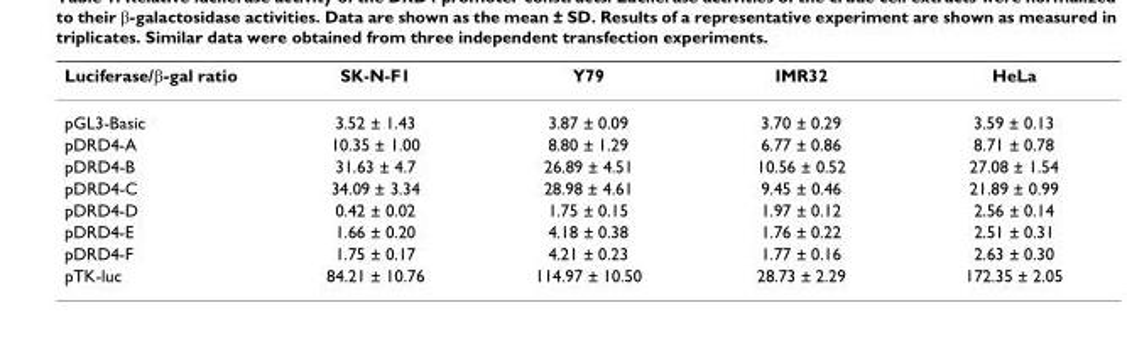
<table><thead><tr><td>Luciferase/β-gal ratio</td><td>SK-N-F1</td><td>Y79</td><td>IMR32</td><td>HeLa</td></tr></thead><tbody><tr><td>pGL3-Basic</td><td>3.52 ± 1.43</td><td>3.87 ± 0.09</td><td>3.70 ± 0.29</td><td>3.59 ± 0.13</td></tr><tr><td>pDRD4-A</td><td>10.35 ± 1.00</td><td>8.80 ± 1.29</td><td>6.77 ± 0.86</td><td>8.71 ± 0.78</td></tr><tr><td>pDRD4-B</td><td>31.63 ± 4.7</td><td>26.89 ± 4.51</td><td>10.56 ± 0.52</td><td>27.08 ± 1.54</td></tr><tr><td>pDRD4-C</td><td>34.09 ± 3.34</td><td>28.98 ± 4.61</td><td>9.45 ± 0.46</td><td>21.89 ± 0.99</td></tr><tr><td>pDRD4-D</td><td>0.42 ± 0.02</td><td>1.75 ± 0.15</td><td>1.97 ± 0.12</td><td>2.56 ± 0.14</td></tr><tr><td>pDRD4-E</td><td>1.66 ± 0.20</td><td>4.18 ± 0.38</td><td>1.76 ± 0.22</td><td>2.51 ± 0.31</td></tr><tr><td>pDRD4-F</td><td>1.75 ± 0.17</td><td>4.21 ± 0.23</td><td>1.77 ± 0.16</td><td>2.63 ± 0.30</td></tr><tr><td>pTK-luc</td><td>84.21 ± 10.76</td><td>114.97 ± 10.50</td><td>28.73 ± 2.29</td><td>172.35 ± 2.05</td></tr></tbody></table>